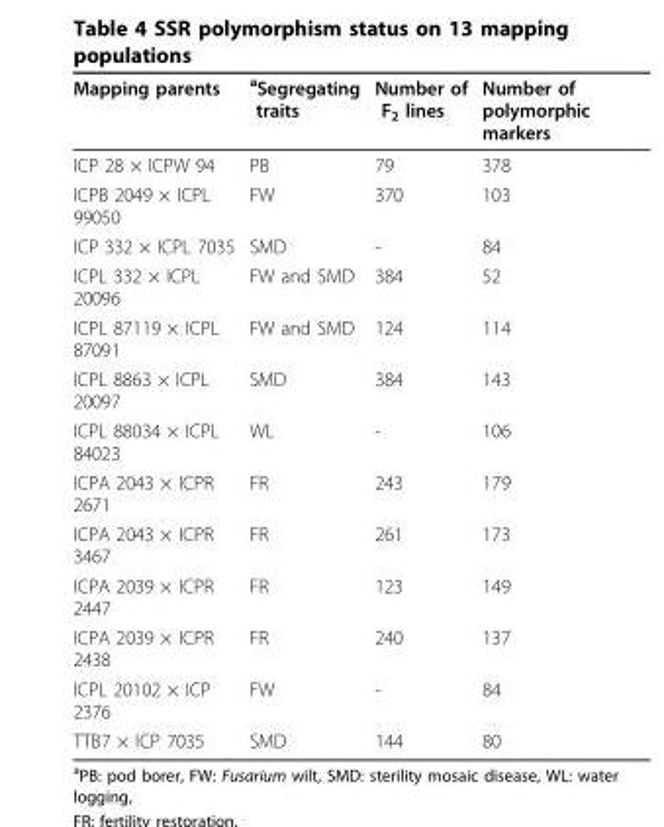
<table><thead><tr><td>Mapping parents</td><td><sup>a</sup>Segregating traits</td><td>Number of F<sub>2</sub> lines</td><td>Number of polymorphic markers</td></tr></thead><tbody><tr><td>ICP 28 × ICPW 94</td><td>PB</td><td>79</td><td>378</td></tr><tr><td>ICPB 2049 × ICPL 99050</td><td>FW</td><td>370</td><td>103</td></tr><tr><td>ICP 332 × ICPL 7035</td><td>SMD</td><td>-</td><td>84</td></tr><tr><td>ICPL 332 × ICPL 20096</td><td>FW and SMD</td><td>384</td><td>52</td></tr><tr><td>ICPL 87119 × ICPL 87091</td><td>FW and SMD</td><td>124</td><td>114</td></tr><tr><td>ICPL 8863 × ICPL 20097</td><td>SMD</td><td>384</td><td>143</td></tr><tr><td>ICPL 88034 × ICPL 84023</td><td>WL</td><td>-</td><td>106</td></tr><tr><td>ICPA 2043 × ICPR 2671</td><td>FR</td><td>243</td><td>179</td></tr><tr><td>ICPA 2043 × ICPR 3467</td><td>FR</td><td>261</td><td>173</td></tr><tr><td>ICPA 2039 × ICPR 2447</td><td>FR</td><td>123</td><td>149</td></tr><tr><td>ICPA 2039 × ICPR 2438</td><td>FR</td><td>240</td><td>137</td></tr><tr><td>ICPL 20102 × ICP 2376</td><td>FW</td><td>-</td><td>84</td></tr><tr><td>TTB7 × ICP 7035</td><td>SMD</td><td>144</td><td>80</td></tr></tbody></table>